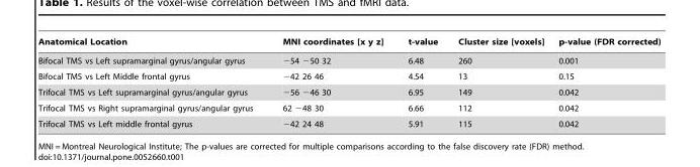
<table><thead><tr><td>Anatomical Location</td><td>MNI coordinates [x y z]</td><td>t-value</td><td>Cluster size [voxels]</td><td>p-value (FDR corrected)</td></tr></thead><tbody><tr><td>Bifocal TMS vs Left supramarginal gyrus/angular gyrus</td><td>−54 −50 32</td><td>6.48</td><td>260</td><td>0.001</td></tr><tr><td>Bifocal TMS vs Left Middle frontal gyrus</td><td>−42 26 46</td><td>4.54</td><td>13</td><td>0.15</td></tr><tr><td>Trifocal TMS vs Left supramarginal gyrus/angular gyrus</td><td>−56 −46 30</td><td>6.95</td><td>149</td><td>0.042</td></tr><tr><td>Trifocal TMS vs Right supramarginal gyrus/angular gyrus</td><td>62 −48 30</td><td>6.66</td><td>112</td><td>0.042</td></tr><tr><td>Trifocal TMS vs Left middle frontal gyrus</td><td>−42 24 48</td><td>5.91</td><td>115</td><td>0.042</td></tr></tbody></table>